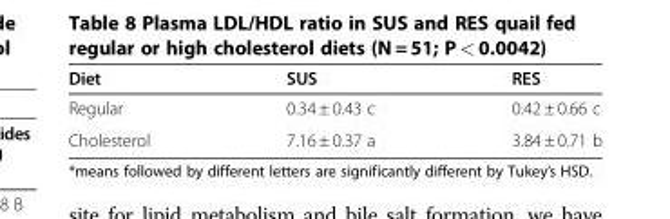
<table><thead><tr><td>Diet</td><td>SUS</td><td>RES</td></tr></thead><tbody><tr><td>Regular</td><td>0.34 ± 0.43 c</td><td>0.42 ± 0.66 c</td></tr><tr><td>Cholesterol</td><td>7.16 ± 0.37 a</td><td>3.84 ± 0.71 b</td></tr></tbody></table>